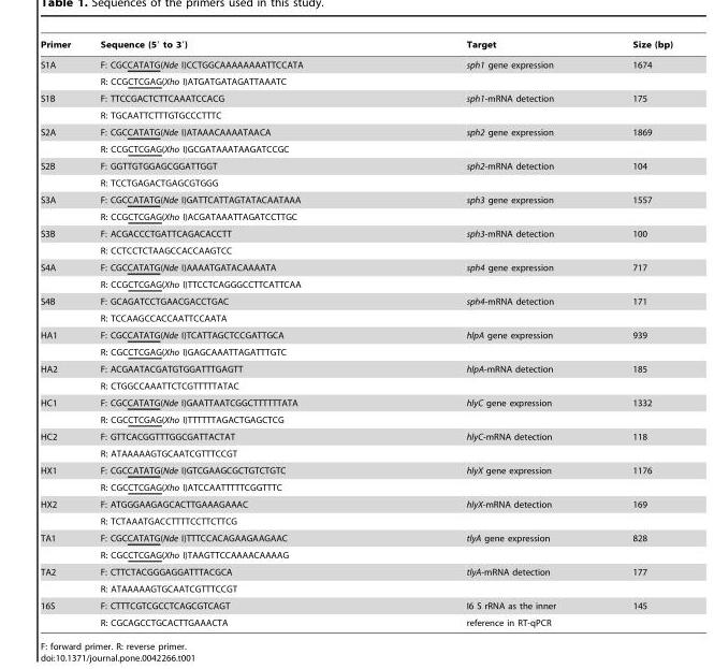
<table><thead><tr><td>Primer</td><td>Sequence (5′ to 3′)</td><td>Target</td><td>Size (bp)</td></tr></thead><tbody><tr><td rowspan="2">S1A</td><td>F: CGCCATATG(Nde I)CCTGGCAAAAAAAATTCCATA</td><td>sph1 gene expression</td><td>1674</td></tr><tr><td>R: CCGCTCGAG(Xho I)ATGATGATAGATTAAATC</td><td></td><td></td></tr><tr><td rowspan="2">S1B</td><td>F: TTCCGACTCTTCAAATCCACG</td><td>sph1-mRNA detection</td><td>175</td></tr><tr><td>R: TGCAATTCTTTGTGCCCTTTC</td><td></td><td></td></tr><tr><td rowspan="2">S2A</td><td>F: CGCCATATG(Nde I)ATAAACAAAATAACA</td><td>sph2 gene expression</td><td>1869</td></tr><tr><td>R: CCGCTCGAG(Xho I)GCGATAAATAAGATCCGC</td><td></td><td></td></tr><tr><td rowspan="2">S2B</td><td>F: GGTTGTGGAGCGGATTGGT</td><td>sph2-mRNA detection</td><td>104</td></tr><tr><td>R: TCCTGAGACTGAGCGTGGG</td><td></td><td></td></tr><tr><td rowspan="2">S3A</td><td>F: CGCCATATG(Nde I)GATTCATTAGTATACAATAAA</td><td>sph3 gene expression</td><td>1557</td></tr><tr><td>R: CCGCTCGAG(Xho I)ACGATAAATTAGATCCTTGC</td><td></td><td></td></tr><tr><td rowspan="2">S3B</td><td>F: ACGACCCTGATTCAGACACCTT</td><td>sph3-mRNA detection</td><td>100</td></tr><tr><td>R: CCTCCTCTAAGCCACCAAGTCC</td><td></td><td></td></tr><tr><td rowspan="2">S4A</td><td>F: CGCCATATG(Nde I)AAAATGATACAAAATA</td><td>sph4 gene expression</td><td>717</td></tr><tr><td>R: CCGCTCGAG(Xho I)TTCCTCAGGGCCTTCATTCAA</td><td></td><td></td></tr><tr><td rowspan="2">S4B</td><td>F: GCAGATCCTGAACGACCTGAC</td><td>sph4-mRNA detection</td><td>171</td></tr><tr><td>R: TCCAAGCCACCAATTCCAATA</td><td></td><td></td></tr><tr><td rowspan="2">HA1</td><td>F: CGCCATATG(Nde I)TCATTAGCTCCGATTGCA</td><td>hlpA gene expression</td><td>939</td></tr><tr><td>R: CGCCTCGAG(Xho I)GAGCAAATTAGATTTGTC</td><td></td><td></td></tr><tr><td rowspan="2">HA2</td><td>F: ACGAATACGATGTGGATTTGAGTT</td><td>hlpA-mRNA detection</td><td>185</td></tr><tr><td>R: CTGGCCAAATTCTCGTTTTTATAC</td><td></td><td></td></tr><tr><td rowspan="2">HC1</td><td>F: CGCCATATG(Nde I)GAATTAATCGGCTTTTTTATA</td><td>hlyC gene expression</td><td>1332</td></tr><tr><td>R: CGCCTCGAG(Xho I)TTTTTTAGACTGAGCTCG</td><td></td><td></td></tr><tr><td rowspan="2">HC2</td><td>F: GTTCACGGTTTGGCGATTACTAT</td><td>hlyC-mRNA detection</td><td>118</td></tr><tr><td>R: ATAAAAAGTGCAATCGTTTCCGT</td><td></td><td></td></tr><tr><td rowspan="2">HX1</td><td>F: CGCCATATG(Nde I)GTCGAAGCGCTGTCTGTC</td><td>hlyX gene expression</td><td>1176</td></tr><tr><td>R: CGCCTCGAG(Xho I)ATCCAATTTTTCGGTTTC</td><td></td><td></td></tr><tr><td rowspan="2">HX2</td><td>F: ATGGGAAGAGCACTTGAAAGAAAC</td><td>hlyX-mRNA detection</td><td>169</td></tr><tr><td>R: TCTAAATGACCTTTTCCTTCTTCG</td><td></td><td></td></tr><tr><td rowspan="2">TA1</td><td>F: CGCCATATG(Nde I)TTTCCACAGAAGAAGAAC</td><td>tlyA gene expression</td><td>828</td></tr><tr><td>R: CGCCTCGAG(Xho I)TAAGTTCCAAAACAAAAG</td><td></td><td></td></tr><tr><td rowspan="2">TA2</td><td>F: CTTCTACGGGAGGATTTACGCA</td><td>tlyA-mRNA detection</td><td>177</td></tr><tr><td>R: ATAAAAAGTGCAATCGTTTCCGT</td><td></td><td></td></tr><tr><td rowspan="2">16S</td><td>F: CTTTCGTCGCCTCAGCGTCAGT</td><td>I6 S rRNA as the inner</td><td>145</td></tr><tr><td>R: CGCAGCCTGCACTTGAAACTA</td><td>reference in RT-qPCR</td><td></td></tr></tbody></table>